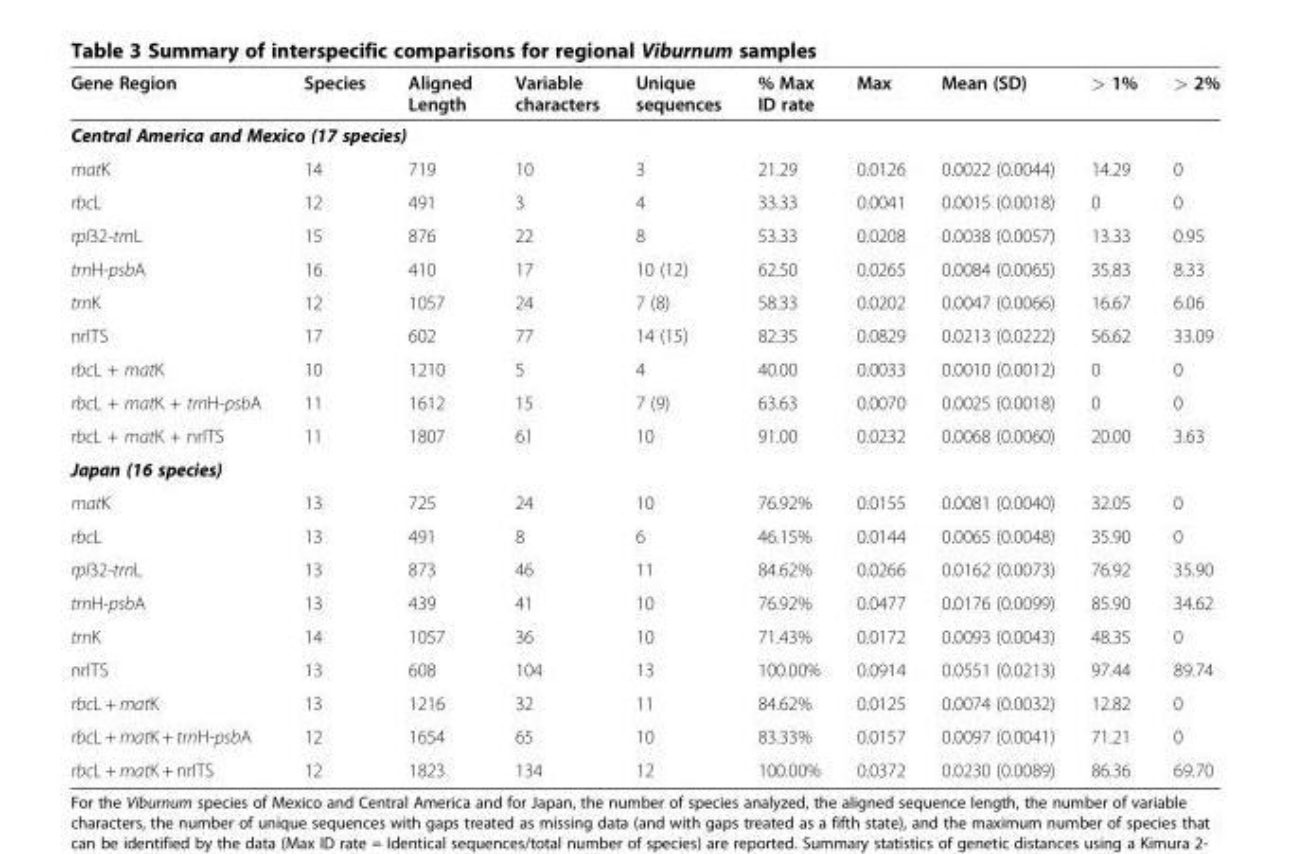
<table><thead><tr><td>Gene Region</td><td>Species</td><td>Aligned Length</td><td>Variable characters</td><td>Unique sequences</td><td>% Max ID rate</td><td>Max</td><td>Mean (SD)</td><td>&gt; 1%</td><td>&gt; 2%</td></tr></thead><tbody><tr><td colspan="10">Central America and Mexico (17 species)</td></tr><tr><td>matK</td><td>14</td><td>719</td><td>10</td><td>3</td><td>21.29</td><td>0.0126</td><td>0.0022 (0.0044)</td><td>14.29</td><td>0</td></tr><tr><td>rbcL</td><td>12</td><td>491</td><td>3</td><td>4</td><td>33.33</td><td>0.0041</td><td>0.0015 (0.0018)</td><td>0</td><td>0</td></tr><tr><td>rpl32-trnL</td><td>15</td><td>876</td><td>22</td><td>8</td><td>53.33</td><td>0.0208</td><td>0.0038 (0.0057)</td><td>13.33</td><td>0.95</td></tr><tr><td>trnH-psbA</td><td>16</td><td>410</td><td>17</td><td>10 (12)</td><td>62.50</td><td>0.0265</td><td>0.0084 (0.0065)</td><td>35.83</td><td>8.33</td></tr><tr><td>trnK</td><td>12</td><td>1057</td><td>24</td><td>7 (8)</td><td>58.33</td><td>0.0202</td><td>0.0047 (0.0066)</td><td>16.67</td><td>6.06</td></tr><tr><td>nrITS</td><td>17</td><td>602</td><td>77</td><td>14 (15)</td><td>82.35</td><td>0.0829</td><td>0.0213 (0.0222)</td><td>56.62</td><td>33.09</td></tr><tr><td>rbcL + matK</td><td>10</td><td>1210</td><td>5</td><td>4</td><td>40.00</td><td>0.0033</td><td>0.0010 (0.0012)</td><td>0</td><td>0</td></tr><tr><td>rbcL + matK + trnH-psbA</td><td>11</td><td>1612</td><td>15</td><td>7 (9)</td><td>63.63</td><td>0.0070</td><td>0.0025 (0.0018)</td><td>0</td><td>0</td></tr><tr><td>rbcL + matK + nrITS</td><td>11</td><td>1807</td><td>61</td><td>10</td><td>91.00</td><td>0.0232</td><td>0.0068 (0.0060)</td><td>20.00</td><td>3.63</td></tr><tr><td colspan="10">Japan (16 species)</td></tr><tr><td>matK</td><td>13</td><td>725</td><td>24</td><td>10</td><td>76.92%</td><td>0.0155</td><td>0.0081 (0.0040)</td><td>32.05</td><td>0</td></tr><tr><td>rbcL</td><td>13</td><td>491</td><td>8</td><td>6</td><td>46.15%</td><td>0.0144</td><td>0.0065 (0.0048)</td><td>35.90</td><td>0</td></tr><tr><td>rpl32-trnL</td><td>13</td><td>873</td><td>46</td><td>11</td><td>84.62%</td><td>0.0266</td><td>0.0162 (0.0073)</td><td>76.92</td><td>35.90</td></tr><tr><td>trnH-psbA</td><td>13</td><td>439</td><td>41</td><td>10</td><td>76.92%</td><td>0.0477</td><td>0.0176 (0.0099)</td><td>85.90</td><td>34.62</td></tr><tr><td>trnK</td><td>14</td><td>1057</td><td>36</td><td>10</td><td>71.43%</td><td>0.0172</td><td>0.0093 (0.0043)</td><td>48.35</td><td>0</td></tr><tr><td>nrITS</td><td>13</td><td>608</td><td>104</td><td>13</td><td>100.00%</td><td>0.0914</td><td>0.0551 (0.0213)</td><td>97.44</td><td>89.74</td></tr><tr><td>rbcL + matK</td><td>13</td><td>1216</td><td>32</td><td>11</td><td>84.62%</td><td>0.0125</td><td>0.0074 (0.0032)</td><td>12.82</td><td>0</td></tr><tr><td>rbcL + matK + trnH-psbA</td><td>12</td><td>1654</td><td>65</td><td>10</td><td>83.33%</td><td>0.0157</td><td>0.0097 (0.0041)</td><td>71.21</td><td>0</td></tr><tr><td>rbcL + matK + nrITS</td><td>12</td><td>1823</td><td>134</td><td>12</td><td>100.00%</td><td>0.0372</td><td>0.0230 (0.0089)</td><td>86.36</td><td>69.70</td></tr></tbody></table>